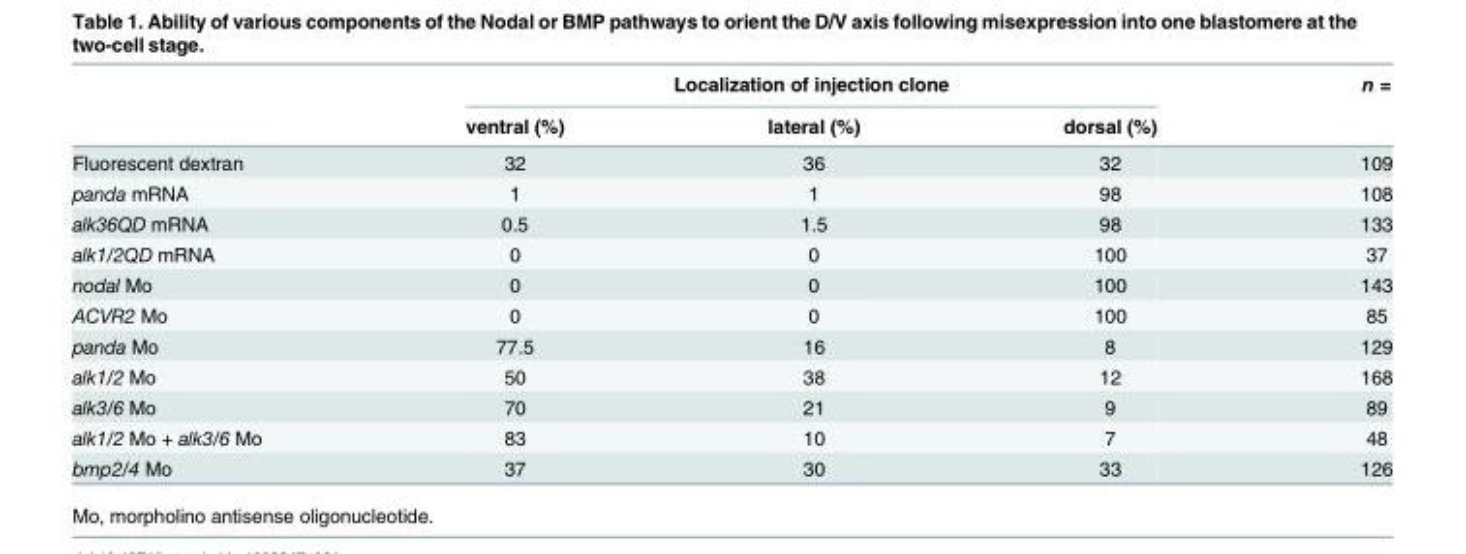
<table><thead><tr><td rowspan="2"></td><td colspan="3">Localization of injection clone</td><td rowspan="2">n =</td></tr><tr><td>ventral (%)</td><td>lateral (%)</td><td>dorsal (%)</td></tr></thead><tbody><tr><td>Fluorescent dextran</td><td>32</td><td>36</td><td>32</td><td>109</td></tr><tr><td>panda mRNA</td><td>1</td><td>1</td><td>98</td><td>108</td></tr><tr><td>alk36QD mRNA</td><td>0.5</td><td>1.5</td><td>98</td><td>133</td></tr><tr><td>alk1/2QD mRNA</td><td>0</td><td>0</td><td>100</td><td>37</td></tr><tr><td>nodal Mo</td><td>0</td><td>0</td><td>100</td><td>143</td></tr><tr><td>ACVR2 Mo</td><td>0</td><td>0</td><td>100</td><td>85</td></tr><tr><td>panda Mo</td><td>77.5</td><td>16</td><td>8</td><td>129</td></tr><tr><td>alk1/2 Mo</td><td>50</td><td>38</td><td>12</td><td>168</td></tr><tr><td>alk3/6 Mo</td><td>70</td><td>21</td><td>9</td><td>89</td></tr><tr><td>alk1/2 Mo + alk3/6 Mo</td><td>83</td><td>10</td><td>7</td><td>48</td></tr><tr><td>bmp2/4 Mo</td><td>37</td><td>30</td><td>33</td><td>126</td></tr></tbody></table>